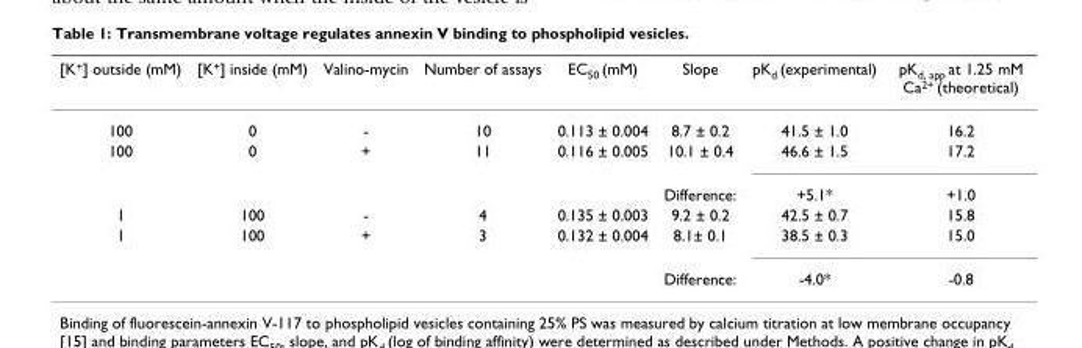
<table><thead><tr><td>[K<sup>+</sup>] outside (mM)</td><td>[K<sup>+</sup>] inside (mM)</td><td>Valino-mycin</td><td>Number of assays</td><td>EC<sub>50</sub> (mM)</td><td>Slope</td><td>pK<sub>d</sub> (experimental)</td><td>pK<sub>d, app</sub> at 1.25 mM Ca<sup>2+</sup> (theoretical)</td></tr></thead><tbody><tr><td>100</td><td>0</td><td>-</td><td>10</td><td>0.113 ± 0.004</td><td>8.7 ± 0.2</td><td>41.5 ± 1.0</td><td>16.2</td></tr><tr><td rowspan="2">100</td><td>0</td><td>+</td><td>11</td><td>0.116 ± 0.005</td><td>10.1 ± 0.4</td><td>46.6 ± 1.5</td><td>17.2</td></tr><tr><td></td><td></td><td></td><td></td><td>Difference:</td><td>+5.1*</td><td>+1.0</td></tr><tr><td>1</td><td>100</td><td>-</td><td>4</td><td>0.135 ± 0.003</td><td>9.2 ± 0.2</td><td>42.5 ± 0.7</td><td>15.8</td></tr><tr><td rowspan="2">1</td><td>100</td><td>+</td><td>3</td><td>0.132 ± 0.004</td><td>8.1± 0.1</td><td>38.5 ± 0.3</td><td>15.0</td></tr><tr><td></td><td></td><td></td><td></td><td>Difference:</td><td>-4.0*</td><td>-0.8</td></tr></tbody></table>